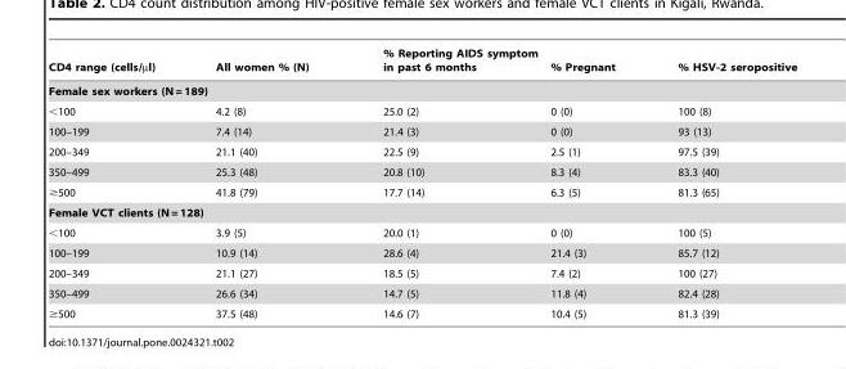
<table><thead><tr><td>CD4 range (cells/µl)</td><td>All women % (N)</td><td>% Reporting AIDS symptom in past 6 months</td><td>% Pregnant</td><td>% HSV-2 seropositive</td></tr></thead><tbody><tr><td colspan="5">Female sex workers (N = 189)</td></tr><tr><td>&lt;100</td><td>4.2 (8)</td><td>25.0 (2)</td><td>0 (0)</td><td>100 (8)</td></tr><tr><td>100–199</td><td>7.4 (14)</td><td>21.4 (3)</td><td>0 (0)</td><td>93 (13)</td></tr><tr><td>200–349</td><td>21.1 (40)</td><td>22.5 (9)</td><td>2.5 (1)</td><td>97.5 (39)</td></tr><tr><td>350–499</td><td>25.3 (48)</td><td>20.8 (10)</td><td>8.3 (4)</td><td>83.3 (40)</td></tr><tr><td>≥500</td><td>41.8 (79)</td><td>17.7 (14)</td><td>6.3 (5)</td><td>81.3 (65)</td></tr><tr><td colspan="5">Female VCT clients (N = 128)</td></tr><tr><td>&lt;100</td><td>3.9 (5)</td><td>20.0 (1)</td><td>0 (0)</td><td>100 (5)</td></tr><tr><td>100–199</td><td>10.9 (14)</td><td>28.6 (4)</td><td>21.4 (3)</td><td>85.7 (12)</td></tr><tr><td>200–349</td><td>21.1 (27)</td><td>18.5 (5)</td><td>7.4 (2)</td><td>100 (27)</td></tr><tr><td>350–499</td><td>26.6 (34)</td><td>14.7 (5)</td><td>11.8 (4)</td><td>82.4 (28)</td></tr><tr><td>≥500</td><td>37.5 (48)</td><td>14.6 (7)</td><td>10.4 (5)</td><td>81.3 (39)</td></tr></tbody></table>